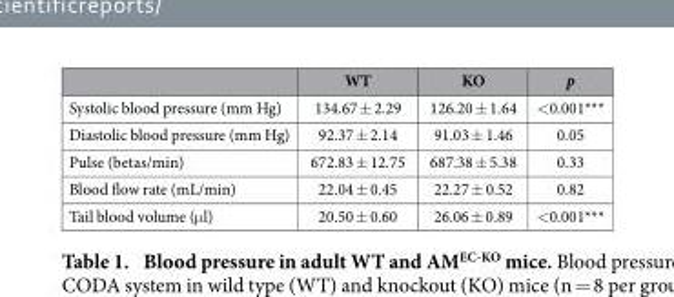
<table><thead><tr><td></td><td>WT</td><td>KO</td><td>p</td></tr></thead><tbody><tr><td>Systolic blood pressure (mm Hg)</td><td>134.67 ± 2.29</td><td>126.20 ± 1.64</td><td>&lt; 0.001***</td></tr><tr><td>Diastolic blood pressure (mm Hg)</td><td>92.37 ± 2.14</td><td>91.03 ± 1.46</td><td>0.05</td></tr><tr><td>Pulse (betas/min)</td><td>672.83 ± 12.75</td><td>687.38 ± 5.38</td><td>0.33</td></tr><tr><td>Blood flow rate (mL/min)</td><td>22.04 ± 0.45</td><td>22.27 ± 0.52</td><td>0.82</td></tr><tr><td>Tail blood volume (μ l)</td><td>20.50 ± 0.60</td><td>26.06 ± 0.89</td><td>&lt; 0.001***</td></tr></tbody></table>